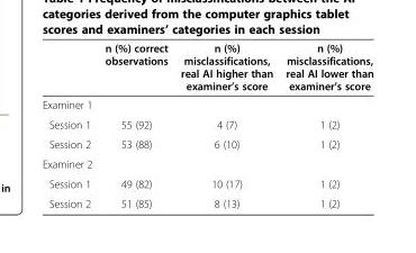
<table><thead><tr><td></td><td>n (%) correct observations</td><td>n (%) misclassifications, real AI higher than examiner’s score</td><td>n (%) misclassifications, real AI lower than examiner’s score</td></tr></thead><tbody><tr><td colspan="4">Examiner 1</td></tr><tr><td>Session 1</td><td>55 (92)</td><td>4 (7)</td><td>1 (2)</td></tr><tr><td>Session 2</td><td>53 (88)</td><td>6 (10)</td><td>1 (2)</td></tr><tr><td colspan="4">Examiner 2</td></tr><tr><td>Session 1</td><td>49 (82)</td><td>10 (17)</td><td>1 (2)</td></tr><tr><td>Session 2</td><td>51 (85)</td><td>8 (13)</td><td>1 (2)</td></tr></tbody></table>